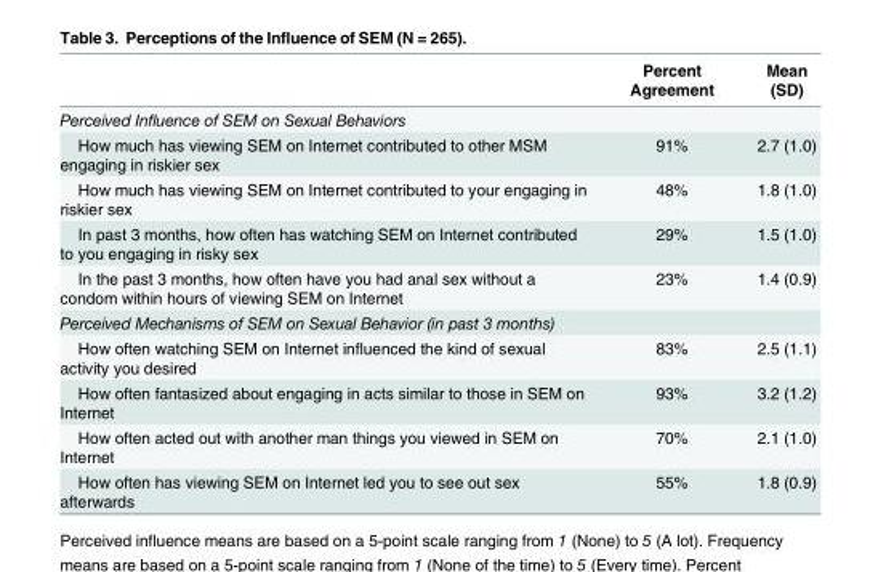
<table><thead><tr><td></td><td>Percent Agreement</td><td>Mean (SD)</td></tr></thead><tbody><tr><td colspan="3">Perceived Influence of SEM on Sexual Behaviors</td></tr><tr><td>How much has viewing SEM on Internet contributed to other MSM engaging in riskier sex</td><td>91%</td><td>2.7 (1.0)</td></tr><tr><td>How much has viewing SEM on Internet contributed to your engaging in riskier sex</td><td>48%</td><td>1.8 (1.0)</td></tr><tr><td>In past 3 months, how often has watching SEM on Internet contributed to you engaging in risky sex</td><td>29%</td><td>1.5 (1.0)</td></tr><tr><td>In the past 3 months, how often have you had anal sex without a condom within hours of viewing SEM on Internet</td><td>23%</td><td>1.4 (0.9)</td></tr><tr><td colspan="3">Perceived Mechanisms of SEM on Sexual Behavior (in past 3 months)</td></tr><tr><td>How often watching SEM on Internet influenced the kind of sexual activity you desired</td><td>83%</td><td>2.5 (1.1)</td></tr><tr><td>How often fantasized about engaging in acts similar to those in SEM on Internet</td><td>93%</td><td>3.2 (1.2)</td></tr><tr><td>How often acted out with another man things you viewed in SEM on Internet</td><td>70%</td><td>2.1 (1.0)</td></tr><tr><td>How often has viewing SEM on Internet led you to see out sex afterwards</td><td>55%</td><td>1.8 (0.9)</td></tr></tbody></table>